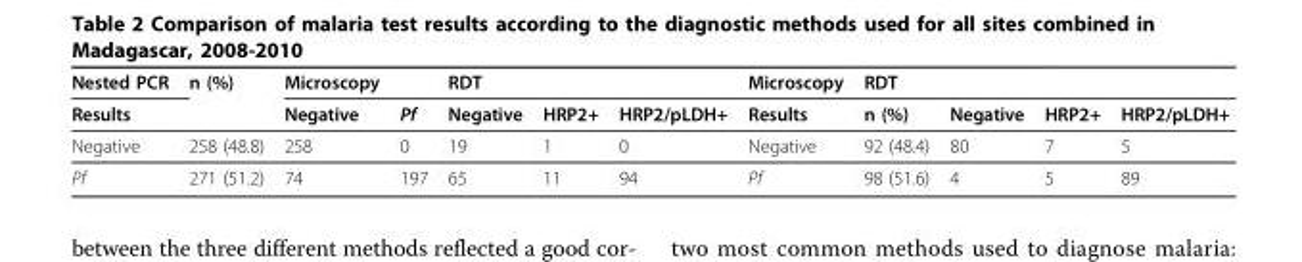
<table><thead><tr><td rowspan="2">Nested PCR Results</td><td rowspan="2">n (%)</td><td rowspan="2">Microscopy Negative</td><td rowspan="2">Pf</td><td rowspan="2">RDT Negative</td><td rowspan="2">HRP2+</td><td rowspan="2">HRP2/pLDH+</td><td rowspan="2">Microscopy Results</td><td rowspan="2">RDT n (%)</td><td rowspan="2">Negative</td><td rowspan="2">HRP2+</td><td rowspan="2">HRP2/pLDH+</td></tr><tr></tr></thead><tbody><tr><td>Negative</td><td>258 (48.8)</td><td>258</td><td>0</td><td>19</td><td>1</td><td>0</td><td>Negative</td><td>92 (48.4)</td><td>80</td><td>7</td><td>5</td></tr><tr><td>Pf</td><td>271 (51.2)</td><td>74</td><td>197</td><td>65</td><td>11</td><td>94</td><td>Pf</td><td>98 (51.6)</td><td>4</td><td>5</td><td>89</td></tr></tbody></table>